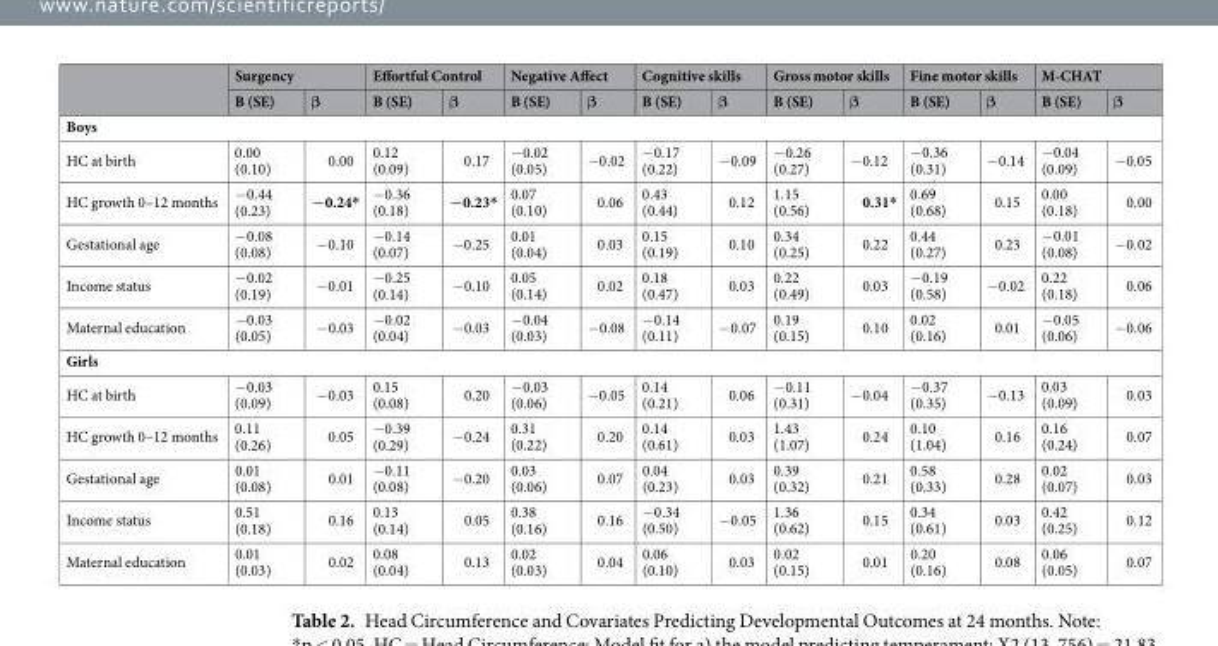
<table><thead><tr><td rowspan="2"></td><td colspan="2">Surgency</td><td colspan="2">Effortful Control</td><td colspan="2">Negative Affect</td><td colspan="2">Cognitive skills</td><td colspan="2">Gross motor skills</td><td colspan="2">Fine motor skills</td><td colspan="2">M-CHAT</td></tr><tr><td>B (SE)</td><td>β</td><td>B (SE)</td><td>β</td><td>B (SE)</td><td>β</td><td>B (SE)</td><td>β</td><td>B (SE)</td><td>β</td><td>B (SE)</td><td>β</td><td>B (SE)</td><td>β</td></tr></thead><tbody><tr><td colspan="15">Boys</td></tr><tr><td>HC at birth</td><td>0.00 (0.10)</td><td>0.00</td><td>0.12 (0.09)</td><td>0.17</td><td>−0.02 (0.05)</td><td>−0.02</td><td>−0.17 (0.22)</td><td>−0.09</td><td>−0.26 (0.27)</td><td>−0.12</td><td>−0.36 (0.31)</td><td>−0.14</td><td>−0.04 (0.09)</td><td>−0.05</td></tr><tr><td>HC growth 0–12 months</td><td>−0.44 (0.23)</td><td>−0.24*</td><td>−0.36 (0.18)</td><td>−0.23*</td><td>0.07 (0.10)</td><td>0.06</td><td>0.43 (0.44)</td><td>0.12</td><td>1.15 (0.56)</td><td>0.31*</td><td>0.69 (0.68)</td><td>0.15</td><td>0.00 (0.18)</td><td>0.00</td></tr><tr><td>Gestational age</td><td>−0.08 (0.08)</td><td>−0.10</td><td>−0.14 (0.07)</td><td>−0.25</td><td>0.01 (0.04)</td><td>0.03</td><td>0.15 (0.19)</td><td>0.10</td><td>0.34 (0.25)</td><td>0.22</td><td>0.44 (0.27)</td><td>0.23</td><td>−0.01 (0.08)</td><td>−0.02</td></tr><tr><td>Income status</td><td>−0.02 (0.19)</td><td>−0.01</td><td>−0.25 (0.14)</td><td>−0.10</td><td>0.05 (0.14)</td><td>0.02</td><td>0.18 (0.47)</td><td>0.03</td><td>0.22 (0.49)</td><td>0.03</td><td>−0.19 (0.58)</td><td>−0.02</td><td>0.22 (0.18)</td><td>0.06</td></tr><tr><td>Maternal education</td><td>−0.03 (0.05)</td><td>−0.03</td><td>−0.02 (0.04)</td><td>−0.03</td><td>−0.04 (0.03)</td><td>−0.08</td><td>−0.14 (0.11)</td><td>−0.07</td><td>0.19 (0.15)</td><td>0.10</td><td>0.02 (0.16)</td><td>0.01</td><td>−0.05 (0.06)</td><td>−0.06</td></tr><tr><td colspan="15">Girls</td></tr><tr><td>HC at birth</td><td>−0.03 (0.09)</td><td>−0.03</td><td>0.15 (0.08)</td><td>0.20</td><td>−0.03 (0.06)</td><td>−0.05</td><td>0.14 (0.21)</td><td>0.06</td><td>−0.11 (0.31)</td><td>−0.04</td><td>−0.37 (0.35)</td><td>−0.13</td><td>0.03 (0.09)</td><td>0.03</td></tr><tr><td>HC growth 0–12 months</td><td>0.11 (0.26)</td><td>0.05</td><td>−0.39 (0.29)</td><td>−0.24</td><td>0.31 (0.22)</td><td>0.20</td><td>0.14 (0.61)</td><td>0.03</td><td>1.43 (1.07)</td><td>0.24</td><td>0.10 (1.04)</td><td>0.16</td><td>0.16 (0.24)</td><td>0.07</td></tr><tr><td>Gestational age</td><td>0.01 (0.08)</td><td>0.01</td><td>−0.11 (0.08)</td><td>−0.20</td><td>0.03 (0.06)</td><td>0.07</td><td>0.04 (0.23)</td><td>0.03</td><td>0.39 (0.32)</td><td>0.21</td><td>0.58 (0.33)</td><td>0.28</td><td>0.02 (0.07)</td><td>0.03</td></tr><tr><td>Income status</td><td>0.51 (0.18)</td><td>0.16</td><td>0.13 (0.14)</td><td>0.05</td><td>0.38 (0.16)</td><td>0.16</td><td>−0.34 (0.50)</td><td>−0.05</td><td>1.36 (0.62)</td><td>0.15</td><td>0.34 (0.61)</td><td>0.03</td><td>0.42 (0.25)</td><td>0.12</td></tr><tr><td>Maternal education</td><td>0.01 (0.03)</td><td>0.02</td><td>0.08 (0.04)</td><td>0.13</td><td>0.02 (0.03)</td><td>0.04</td><td>0.06 (0.10)</td><td>0.03</td><td>0.02 (0.15)</td><td>0.01</td><td>0.20 (0.16)</td><td>0.08</td><td>0.06 (0.05)</td><td>0.07</td></tr></tbody></table>